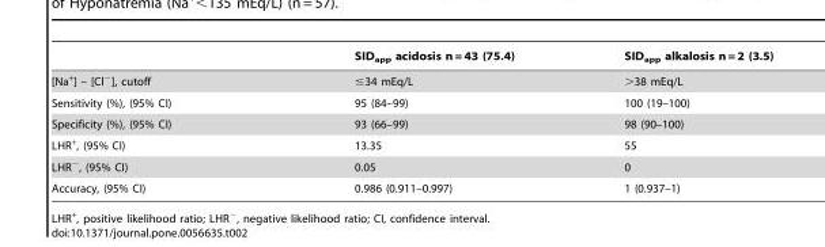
<table><thead><tr><td></td><td>SID<sub>app</sub> acidosis n = 43 (75.4)</td><td>SID<sub>app</sub> alkalosis n = 2 (3.5)</td></tr></thead><tbody><tr><td>[Na<sup>+</sup>] – [Cl<sup>−</sup>], cutoff</td><td>≤34 mEq/L</td><td>&gt;38 mEq/L</td></tr><tr><td>Sensitivity (%), (95% CI)</td><td>95 (84–99)</td><td>100 (19–100)</td></tr><tr><td>Specificity (%), (95% CI)</td><td>93 (66–99)</td><td>98 (90–100)</td></tr><tr><td>LHR<sup>+</sup>, (95% CI)</td><td>13.35</td><td>55</td></tr><tr><td>LHR<sup>−</sup>, (95% CI)</td><td>0.05</td><td>0</td></tr><tr><td>Accuracy, (95% CI)</td><td>0.986 (0.911–0.997)</td><td>1 (0.937–1)</td></tr></tbody></table>